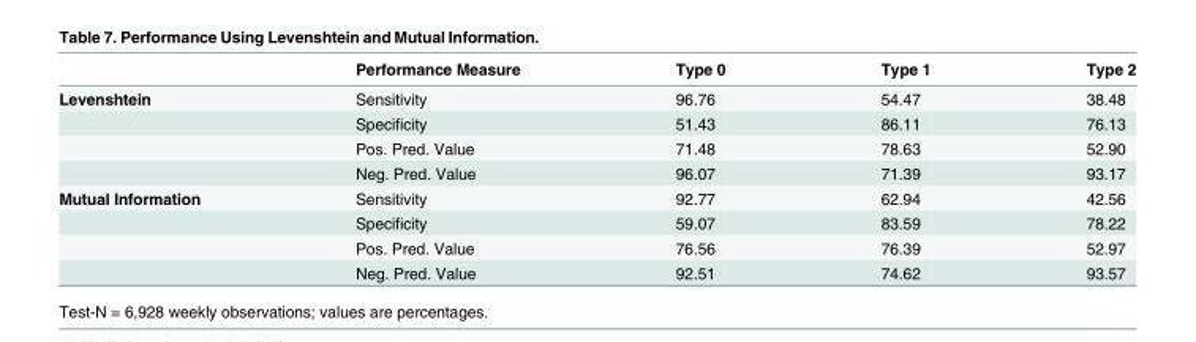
<table><thead><tr><td></td><td>Performance Measure</td><td>Type 0</td><td>Type 1</td><td>Type 2</td></tr></thead><tbody><tr><td rowspan="4">Levenshtein</td><td>Sensitivity</td><td>96.76</td><td>54.47</td><td>38.48</td></tr><tr><td>Specificity</td><td>51.43</td><td>86.11</td><td>76.13</td></tr><tr><td>Pos. Pred. Value</td><td>71.48</td><td>78.63</td><td>52.90</td></tr><tr><td>Neg. Pred. Value</td><td>96.07</td><td>71.39</td><td>93.17</td></tr><tr><td rowspan="4">Mutual Information</td><td>Sensitivity</td><td>92.77</td><td>62.94</td><td>42.56</td></tr><tr><td>Specificity</td><td>59.07</td><td>83.59</td><td>78.22</td></tr><tr><td>Pos. Pred. Value</td><td>76.56</td><td>76.39</td><td>52.97</td></tr><tr><td>Neg. Pred. Value</td><td>92.51</td><td>74.62</td><td>93.57</td></tr></tbody></table>